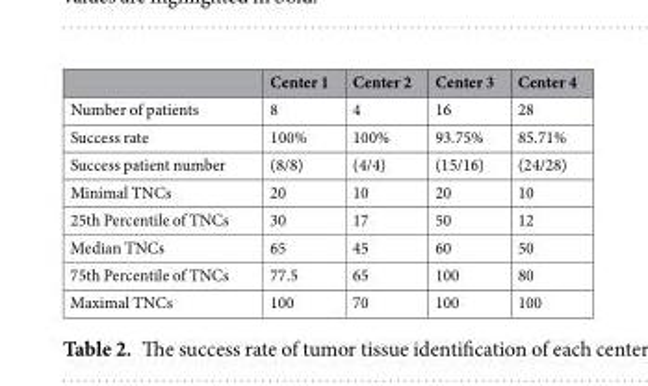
<table><thead><tr><td></td><td>Center 1</td><td>Center 2</td><td>Center 3</td><td>Center 4</td></tr></thead><tbody><tr><td>Number of patients</td><td>8</td><td>4</td><td>16</td><td>28</td></tr><tr><td>Success rate</td><td>100%</td><td>100%</td><td>93.75%</td><td>85.71%</td></tr><tr><td>Success patient number</td><td>(8/8)</td><td>(4/4)</td><td>(15/16)</td><td>(24/28)</td></tr><tr><td>Minimal TNCs</td><td>20</td><td>10</td><td>20</td><td>10</td></tr><tr><td>25th Percentile of TNCs</td><td>30</td><td>17</td><td>50</td><td>12</td></tr><tr><td>Median TNCs</td><td>65</td><td>45</td><td>60</td><td>50</td></tr><tr><td>75th Percentile of TNCs</td><td>77.5</td><td>65</td><td>100</td><td>80</td></tr><tr><td>Maximal TNCs</td><td>100</td><td>70</td><td>100</td><td>100</td></tr></tbody></table>